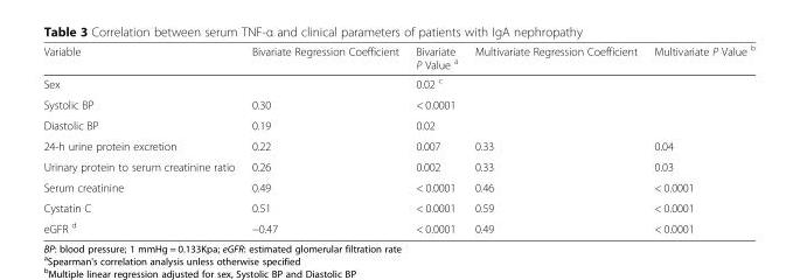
<table><thead><tr><td>Variable</td><td>Bivariate Regression Coefficient</td><td>Bivariate P Value <sup>a</sup></td><td>Multivariate Regression Coefficient</td><td>Multivariate P Value <sup>b</sup></td></tr></thead><tbody><tr><td>Sex</td><td></td><td>0.02 <sup>c</sup></td><td></td><td></td></tr><tr><td>Systolic BP</td><td>0.30</td><td>&lt; 0.0001</td><td></td><td></td></tr><tr><td>Diastolic BP</td><td>0.19</td><td>0.02</td><td></td><td></td></tr><tr><td>24-h urine protein excretion</td><td>0.22</td><td>0.007</td><td>0.33</td><td>0.04</td></tr><tr><td>Urinary protein to serum creatinine ratio</td><td>0.26</td><td>0.002</td><td>0.33</td><td>0.03</td></tr><tr><td>Serum creatinine</td><td>0.49</td><td>&lt; 0.0001</td><td>0.46</td><td>&lt; 0.0001</td></tr><tr><td>Cystatin C</td><td>0.51</td><td>&lt; 0.0001</td><td>0.59</td><td>&lt; 0.0001</td></tr><tr><td>eGFR <sup>d</sup></td><td>−0.47</td><td>&lt; 0.0001</td><td>0.49</td><td>&lt; 0.0001</td></tr></tbody></table>